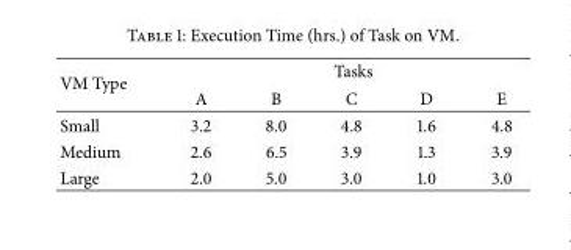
<table><thead><tr><td rowspan="2">VM Type</td><td colspan="5">Tasks</td></tr><tr><td>A</td><td>B</td><td>C</td><td>D</td><td>E</td></tr></thead><tbody><tr><td>Small</td><td>3.2</td><td>8.0</td><td>4.8</td><td>1.6</td><td>4.8</td></tr><tr><td>Medium</td><td>2.6</td><td>6.5</td><td>3.9</td><td>1.3</td><td>3.9</td></tr><tr><td>Large</td><td>2.0</td><td>5.0</td><td>3.0</td><td>1.0</td><td>3.0</td></tr></tbody></table>